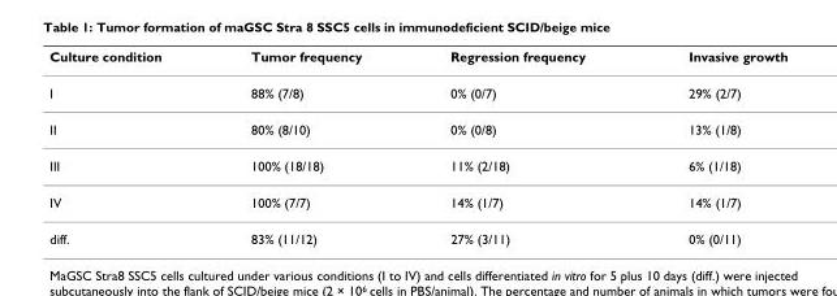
<table><thead><tr><td>Culture condition</td><td>Tumor frequency</td><td>Regression frequency</td><td>Invasive growth</td></tr></thead><tbody><tr><td>I</td><td>88% (7/8)</td><td>0% (0/7)</td><td>29% (2/7)</td></tr><tr><td>II</td><td>80% (8/10)</td><td>0% (0/8)</td><td>13% (1/8)</td></tr><tr><td>III</td><td>100% (18/18)</td><td>11% (2/18)</td><td>6% (1/18)</td></tr><tr><td>IV</td><td>100% (7/7)</td><td>14% (1/7)</td><td>14% (1/7)</td></tr><tr><td>diff.</td><td>83% (11/12)</td><td>27% (3/11)</td><td>0% (0/11)</td></tr></tbody></table>